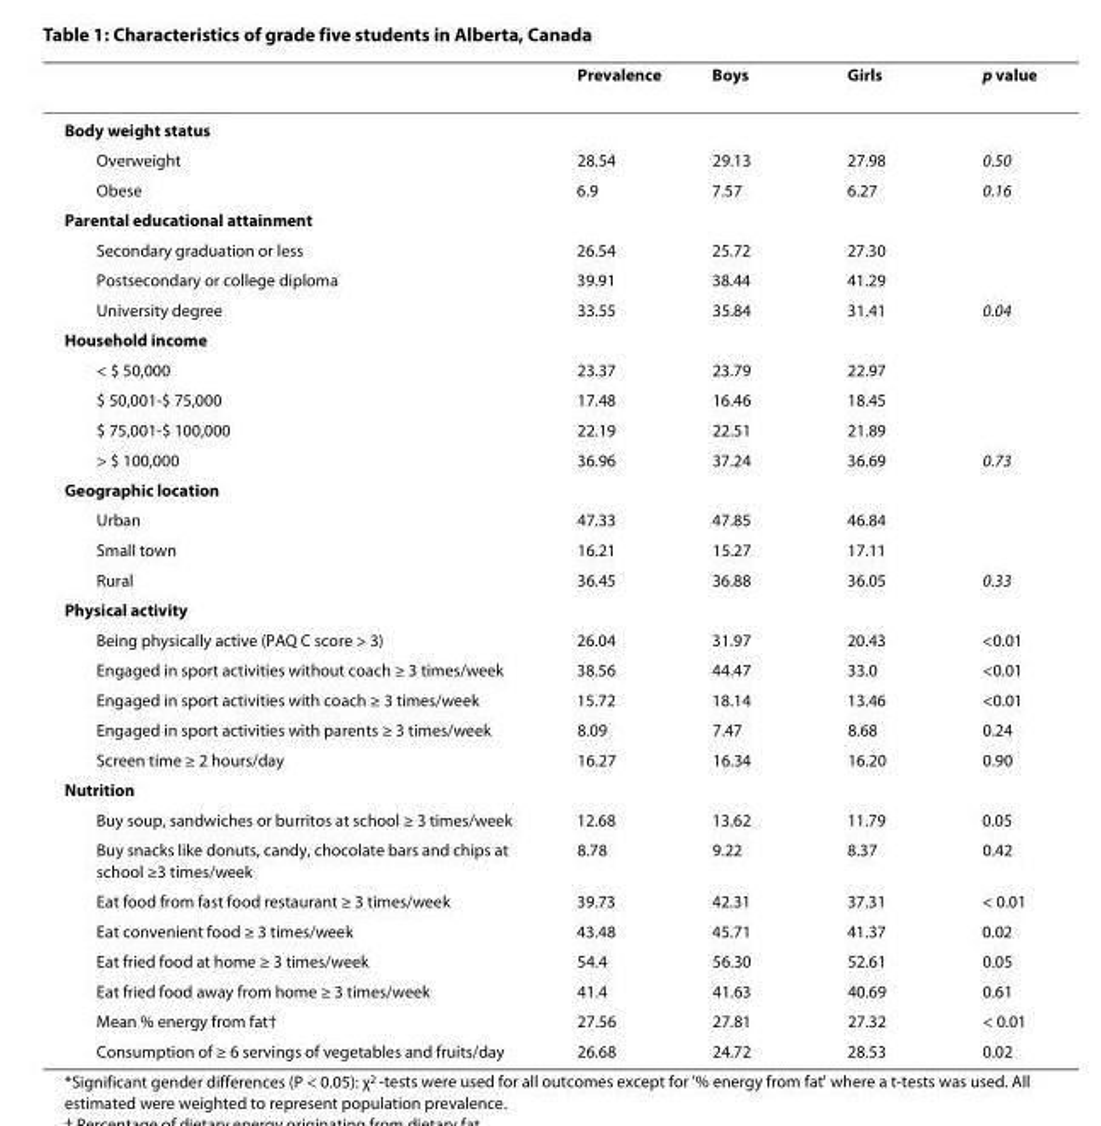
<table><thead><tr><td></td><td>Prevalence</td><td>Boys</td><td>Girls</td><td>p value</td></tr></thead><tbody><tr><td colspan="5">Body weight status</td></tr><tr><td>Overweight</td><td>28.54</td><td>29.13</td><td>27.98</td><td>0.50</td></tr><tr><td>Obese</td><td>6.9</td><td>7.57</td><td>6.27</td><td>0.16</td></tr><tr><td colspan="5">Parental educational attainment</td></tr><tr><td>Secondary graduation or less</td><td>26.54</td><td>25.72</td><td>27.30</td><td></td></tr><tr><td>Postsecondary or college diploma</td><td>39.91</td><td>38.44</td><td>41.29</td><td></td></tr><tr><td>University degree</td><td>33.55</td><td>35.84</td><td>31.41</td><td>0.04</td></tr><tr><td colspan="5">Household income</td></tr><tr><td>&lt; $ 50,000</td><td>23.37</td><td>23.79</td><td>22.97</td><td></td></tr><tr><td>$ 50,001-$ 75,000</td><td>17.48</td><td>16.46</td><td>18.45</td><td></td></tr><tr><td>$ 75,001-$ 100,000</td><td>22.19</td><td>22.51</td><td>21.89</td><td></td></tr><tr><td>&gt; $ 100,000</td><td>36.96</td><td>37.24</td><td>36.69</td><td>0.73</td></tr><tr><td colspan="5">Geographic location</td></tr><tr><td>Urban</td><td>47.33</td><td>47.85</td><td>46.84</td><td></td></tr><tr><td>Small town</td><td>16.21</td><td>15.27</td><td>17.11</td><td></td></tr><tr><td>Rural</td><td>36.45</td><td>36.88</td><td>36.05</td><td>0.33</td></tr><tr><td colspan="5">Physical activity</td></tr><tr><td>Being physically active (PAQ C score &gt; 3)</td><td>26.04</td><td>31.97</td><td>20.43</td><td>&lt;0.01</td></tr><tr><td>Engaged in sport activities without coach ≥ 3 times/week</td><td>38.56</td><td>44.47</td><td>33.0</td><td>&lt;0.01</td></tr><tr><td>Engaged in sport activities with coach ≥ 3 times/week</td><td>15.72</td><td>18.14</td><td>13.46</td><td>&lt;0.01</td></tr><tr><td>Engaged in sport activities with parents ≥ 3 times/week</td><td>8.09</td><td>7.47</td><td>8.68</td><td>0.24</td></tr><tr><td>Screen time ≥ 2 hours/day</td><td>16.27</td><td>16.34</td><td>16.20</td><td>0.90</td></tr><tr><td colspan="5">Nutrition</td></tr><tr><td>Buy soup, sandwiches or burritos at school ≥ 3 times/week</td><td>12.68</td><td>13.62</td><td>11.79</td><td>0.05</td></tr><tr><td>Buy snacks like donuts, candy, chocolate bars and chips at school ≥3 times/week</td><td>8.78</td><td>9.22</td><td>8.37</td><td>0.42</td></tr><tr><td>Eat food from fast food restaurant ≥ 3 times/week</td><td>39.73</td><td>42.31</td><td>37.31</td><td>&lt; 0.01</td></tr><tr><td>Eat convenient food ≥ 3 times/week</td><td>43.48</td><td>45.71</td><td>41.37</td><td>0.02</td></tr><tr><td>Eat fried food at home ≥ 3 times/week</td><td>54.4</td><td>56.30</td><td>52.61</td><td>0.05</td></tr><tr><td>Eat fried food away from home ≥ 3 times/week</td><td>41.4</td><td>41.63</td><td>40.69</td><td>0.61</td></tr><tr><td>Mean % energy from fat†</td><td>27.56</td><td>27.81</td><td>27.32</td><td>&lt; 0.01</td></tr><tr><td>Consumption of ≥ 6 servings of vegetables and fruits/day</td><td>26.68</td><td>24.72</td><td>28.53</td><td>0.02</td></tr></tbody></table>